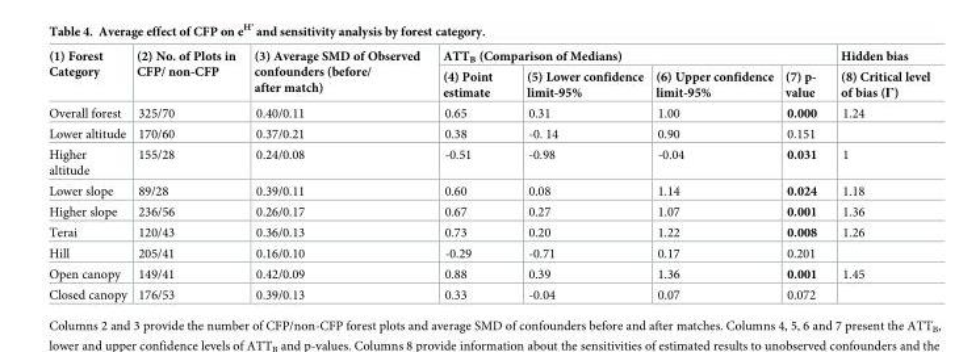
<table><thead><tr><td rowspan="2">(1) Forest Category</td><td rowspan="2">(2) No. of Plots in CFP/ non-CFP</td><td rowspan="2">(3) Average SMD of Observed confounders (before/ after match)</td><td colspan="4">ATT<sub>B</sub> (Comparison of Medians)</td><td rowspan="2">Hidden bias (8) Critical level of bias (Γ)</td></tr><tr><td>(4) Point estimate</td><td>(5) Lower confidence limit-95%</td><td>(6) Upper confidence limit-95%</td><td>(7) p- value</td></tr></thead><tbody><tr><td>Overall forest</td><td>325/70</td><td>0.40/0.11</td><td>0.65</td><td>0.31</td><td>1.00</td><td>0.000</td><td>1.24</td></tr><tr><td>Lower altitude</td><td>170/60</td><td>0.37/0.21</td><td>0.38</td><td>-0. 14</td><td>0.90</td><td>0.151</td><td></td></tr><tr><td>Higher altitude</td><td>155/28</td><td>0.24/0.08</td><td>-0.51</td><td>-0.98</td><td>-0.04</td><td>0.031</td><td>1</td></tr><tr><td>Lower slope</td><td>89/28</td><td>0.39/0.11</td><td>0.60</td><td>0.08</td><td>1.14</td><td>0.024</td><td>1.18</td></tr><tr><td>Higher slope</td><td>236/56</td><td>0.26/0.17</td><td>0.67</td><td>0.27</td><td>1.07</td><td>0.001</td><td>1.36</td></tr><tr><td>Terai</td><td>120/43</td><td>0.36/0.13</td><td>0.73</td><td>0.20</td><td>1.22</td><td>0.008</td><td>1.26</td></tr><tr><td>Hill</td><td>205/41</td><td>0.16/0.10</td><td>-0.29</td><td>-0.71</td><td>0.17</td><td>0.201</td><td></td></tr><tr><td>Open canopy</td><td>149/41</td><td>0.42/0.09</td><td>0.88</td><td>0.39</td><td>1.36</td><td>0.001</td><td>1.45</td></tr><tr><td>Closed canopy</td><td>176/53</td><td>0.39/0.13</td><td>0.33</td><td>-0.04</td><td>0.07</td><td>0.072</td><td></td></tr></tbody></table>